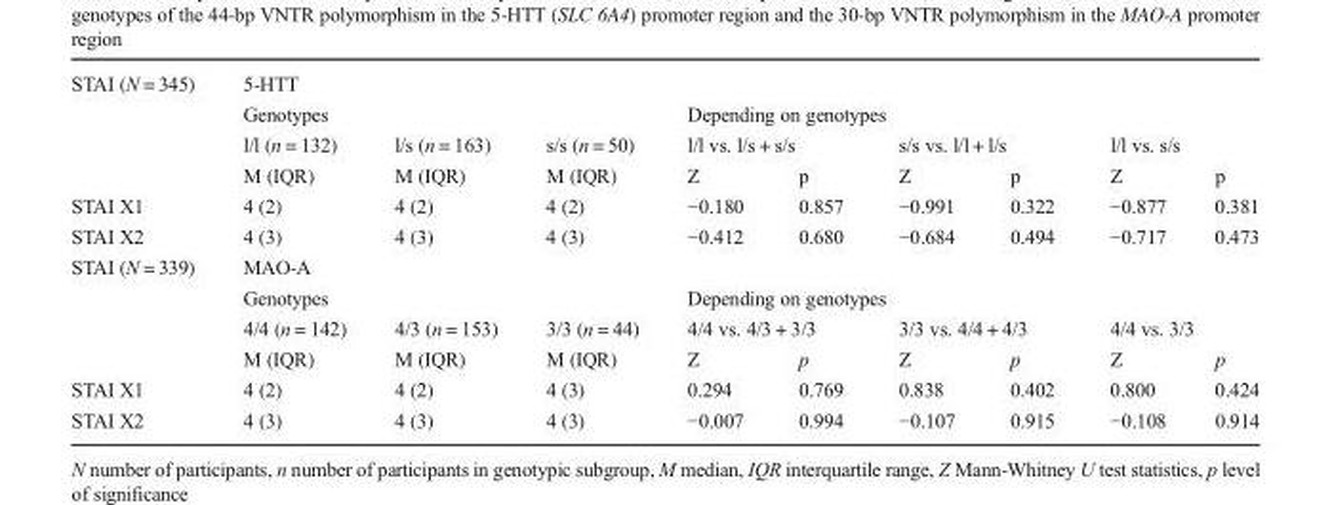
<table><tbody><tr><td rowspan="4">STAI (N = 345)</td><td colspan="9">5-HTT</td></tr><tr><td colspan="3">Genotypes</td><td colspan="6">Depending on genotypes</td></tr><tr><td>l/l (n = 132)</td><td>l/s (n = 163)</td><td>s/s (n = 50)</td><td colspan="2">l/l vs. l/s + s/s</td><td colspan="2">s/s vs. l/l + l/s</td><td colspan="2">l/l vs. s/s</td></tr><tr><td>M (IQR)</td><td>M (IQR)</td><td>M (IQR)</td><td>Z</td><td>p</td><td>Z</td><td>p</td><td>Z</td><td>p</td></tr><tr><td>STAI X1</td><td>4 (2)</td><td>4 (2)</td><td>4 (2)</td><td>−0.180</td><td>0.857</td><td>−0.991</td><td>0.322</td><td>−0.877</td><td>0.381</td></tr><tr><td>STAI X2</td><td>4 (3)</td><td>4 (3)</td><td>4 (3)</td><td>−0.412</td><td>0.680</td><td>−0.684</td><td>0.494</td><td>−0.717</td><td>0.473</td></tr><tr><td rowspan="4">STAI (N = 339)</td><td colspan="9">MAO-A</td></tr><tr><td colspan="3">Genotypes</td><td colspan="6">Depending on genotypes</td></tr><tr><td>4/4 (n = 142)</td><td>4/3 (n = 153)</td><td>3/3 (n = 44)</td><td colspan="2">4/4 vs. 4/3 + 3/3</td><td colspan="2">3/3 vs. 4/4 + 4/3</td><td colspan="2">4/4 vs. 3/3</td></tr><tr><td>M (IQR)</td><td>M (IQR)</td><td>M (IQR)</td><td>Z</td><td>p</td><td>Z</td><td>p</td><td>Z</td><td>p</td></tr><tr><td>STAI X1</td><td>4 (2)</td><td>4 (2)</td><td>4 (3)</td><td>0.294</td><td>0.769</td><td>0.838</td><td>0.402</td><td>0.800</td><td>0.424</td></tr><tr><td>STAI X2</td><td>4 (3)</td><td>4 (3)</td><td>4 (3)</td><td>−0.007</td><td>0.994</td><td>−0.107</td><td>0.915</td><td>−0.108</td><td>0.914</td></tr></tbody></table>